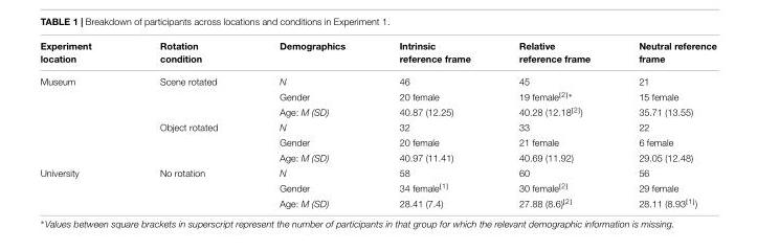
<table><thead><tr><td>Experiment location</td><td>Rotation condition</td><td>Demographics</td><td>Intrinsic reference frame</td><td>Relative reference frame</td><td>Neutral reference frame</td></tr></thead><tbody><tr><td rowspan="6">Museum</td><td>Scene rotated</td><td>N</td><td>46</td><td>45</td><td>21</td></tr><tr><td></td><td>Gender</td><td>20 female</td><td>19 female<sup>[2]∗</sup></td><td>15 female</td></tr><tr><td></td><td>Age: M (SD)</td><td>40.87 (12.25)</td><td>40.28 (12.18<sup>[2]</sup>)</td><td>35.71 (13.55)</td></tr><tr><td>Object rotated</td><td>N</td><td>32</td><td>33</td><td>22</td></tr><tr><td></td><td>Gender</td><td>20 female</td><td>21 female</td><td>6 female</td></tr><tr><td></td><td>Age: M (SD)</td><td>40.97 (11.41)</td><td>40.69 (11.92)</td><td>29.05 (12.48)</td></tr><tr><td rowspan="3">University</td><td>No rotation</td><td>N</td><td>58</td><td>60</td><td>56</td></tr><tr><td></td><td>Gender</td><td>34 female<sup>[1]</sup></td><td>30 female<sup>[2]</sup></td><td>29 female</td></tr><tr><td></td><td>Age: M (SD)</td><td>28.41 (7.4)</td><td>27.88 (8.6)<sup>[2]</sup></td><td>28.11 (8.93<sup>[1]</sup>)</td></tr></tbody></table>